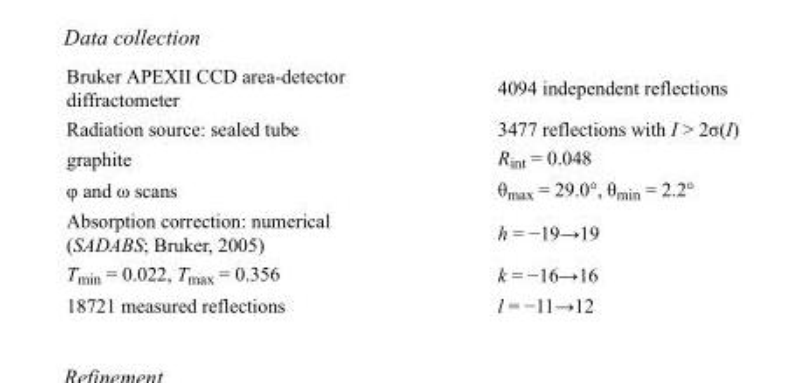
<table><tbody><tr><td>Bruker APEXII CCD area-detector diffractometer</td><td>4094 independent reflections</td></tr><tr><td>Radiation source: sealed tube</td><td>3477 reflections with I &gt; 2σ(I)</td></tr><tr><td>graphite</td><td>R<sub>int</sub> = 0.048</td></tr><tr><td>φ and ω scans</td><td>θ<sub>max</sub> = 29.0°, θ<sub>min</sub> = 2.2°</td></tr><tr><td>Absorption correction: numerical (SADABS; Bruker, 2005)</td><td>h = −19→19</td></tr><tr><td>T<sub>min</sub> = 0.022, T<sub>max</sub> = 0.356</td><td>k = −16→16</td></tr><tr><td>18721 measured reflections</td><td>l = −11→12</td></tr></tbody></table>